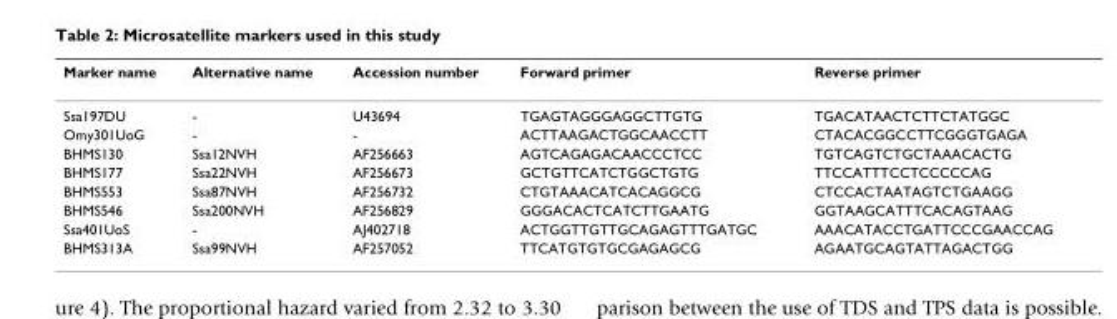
<table><thead><tr><td>Marker name</td><td>Alternative name</td><td>Accession number</td><td>Forward primer</td><td>Reverse primer</td></tr></thead><tbody><tr><td>Ssa197DU</td><td>-</td><td>U43694</td><td>TGAGTAGGGAGGCTTGTG</td><td>TGACATAACTCTTCTATGGC</td></tr><tr><td>Omy301UoG</td><td>-</td><td>-</td><td>ACTTAAGACTGGCAACCTT</td><td>CTACACGGCCTTCGGGTGAGA</td></tr><tr><td>BHMS130</td><td>Ssa12NVH</td><td>AF256663</td><td>AGTCAGAGACAACCCTCC</td><td>TGTCAGTCTGCTAAACACTG</td></tr><tr><td>BHMS177</td><td>Ssa22NVH</td><td>AF256673</td><td>GCTGTTCATCTGGCTGTG</td><td>TTCCATTTCCTCCCCCAG</td></tr><tr><td>BHMS553</td><td>Ssa87NVH</td><td>AF256732</td><td>CTGTAAACATCACAGGCG</td><td>CTCCACTAATAGTCTGAAGG</td></tr><tr><td>BHMS546</td><td>Ssa200NVH</td><td>AF256829</td><td>GGGACACTCATCTTGAATG</td><td>GGTAAGCATTTCACAGTAAG</td></tr><tr><td>Ssa401UoS</td><td>-</td><td>AJ402718</td><td>ACTGGTTGTTGCAGAGTTTGATGC</td><td>AAACATACCTGATTCCCGAACCAG</td></tr><tr><td>BHMS313A</td><td>Ssa99NVH</td><td>AF257052</td><td>TTCATGTGTGCGAGAGCG</td><td>AGAATGCAGTATTAGACTGG</td></tr></tbody></table>